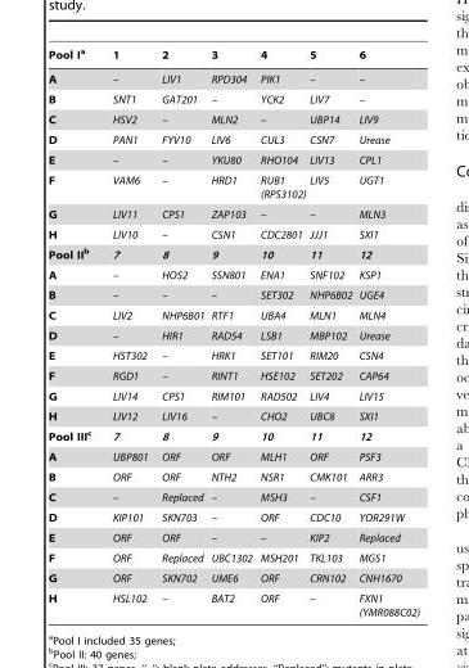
<table><thead><tr><td>Pool I<sup>a</sup></td><td>1</td><td>2</td><td>3</td><td>4</td><td>5</td><td>6</td></tr></thead><tbody><tr><td>A</td><td>–</td><td>LIV1</td><td>RPD304</td><td>PIK1</td><td>–</td><td>–</td></tr><tr><td>B</td><td>SNT1</td><td>GAT201</td><td>–</td><td>YCK2</td><td>LIV7</td><td>–</td></tr><tr><td>C</td><td>HSV2</td><td>–</td><td>MLN2</td><td>–</td><td>UBP14</td><td>LIV9</td></tr><tr><td>D</td><td>PAN1</td><td>FYV10</td><td>LIV6</td><td>CUL3</td><td>CSN7</td><td>Urease</td></tr><tr><td>E</td><td>–</td><td>–</td><td>YKU80</td><td>RHO104</td><td>LIV13</td><td>CPL1</td></tr><tr><td>F</td><td>VAM6</td><td>–</td><td>HRD1</td><td>RUB1 (RPS3102)</td><td>LIV5</td><td>UGT1</td></tr><tr><td>G</td><td>LIV11</td><td>CPS1</td><td>ZAP103</td><td>–</td><td>–</td><td>MLN3</td></tr><tr><td>H</td><td>LIV10</td><td>–</td><td>CSN1</td><td>CDC2801</td><td>JJJ1</td><td>SXI1</td></tr><tr><td>Pool IIb</td><td>7</td><td>8</td><td>9</td><td>10</td><td>11</td><td>12</td></tr><tr><td>A</td><td>–</td><td>HOS2</td><td>SSN801</td><td>ENA1</td><td>SNF102</td><td>KSP1</td></tr><tr><td>B</td><td>–</td><td>–</td><td>–</td><td>SET302</td><td>NHP6B02</td><td>UGE4</td></tr><tr><td>C</td><td>LIV2</td><td>NHP6B01</td><td>RTF1</td><td>UBA4</td><td>MLN1</td><td>MLN4</td></tr><tr><td>D</td><td>–</td><td>HIR1</td><td>RAD54</td><td>LSB1</td><td>MBP102</td><td>Urease</td></tr><tr><td>E</td><td>HST302</td><td>–</td><td>HRK1</td><td>SET101</td><td>RIM20</td><td>CSN4</td></tr><tr><td>F</td><td>RGD1</td><td>–</td><td>RINT1</td><td>HSE102</td><td>SET202</td><td>CAP64</td></tr><tr><td>G</td><td>LIV14</td><td>CPS1</td><td>RIM101</td><td>RAD502</td><td>LIV4</td><td>LIV15</td></tr><tr><td>H</td><td>LIV12</td><td>LIV16</td><td>–</td><td>CHO2</td><td>UBC8</td><td>SXI1</td></tr><tr><td>Pool IIIc</td><td>7</td><td>8</td><td>9</td><td>10</td><td>11</td><td>12</td></tr><tr><td>A</td><td>UBP801</td><td>ORF</td><td>ORF</td><td>MLH1</td><td>ORF</td><td>PSF3</td></tr><tr><td>B</td><td>ORF</td><td>ORF</td><td>NTH2</td><td>NSR1</td><td>CMK101</td><td>ARR3</td></tr><tr><td>C</td><td>–</td><td>Replaced</td><td>–</td><td>MSH3</td><td>–</td><td>CSF1</td></tr><tr><td>D</td><td>KIP101</td><td>SKN703</td><td>–</td><td>ORF</td><td>CDC10</td><td>YOR291W</td></tr><tr><td>E</td><td>ORF</td><td>ORF</td><td>–</td><td>–</td><td>KIP2</td><td>Replaced</td></tr><tr><td>F</td><td>ORF</td><td>Replaced</td><td>UBC1302</td><td>MSH201</td><td>TKL103</td><td>MGS1</td></tr><tr><td>G</td><td>ORF</td><td>SKN702</td><td>UME6</td><td>ORF</td><td>CRN102</td><td>CNH1670</td></tr><tr><td>H</td><td>HSL102</td><td>–</td><td>BAT2</td><td>ORF</td><td>–</td><td>FXN1 (YMR088C02)</td></tr></tbody></table>